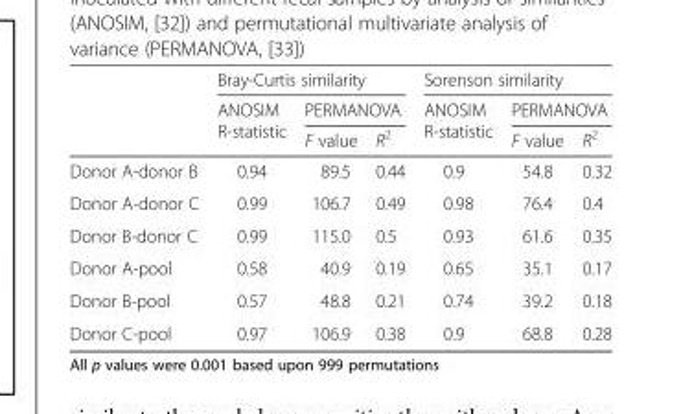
<table><thead><tr><td rowspan="3"></td><td colspan="3">Bray-Curtis similarity</td><td colspan="3">Sorenson similarity</td></tr><tr><td rowspan="2">ANOSIM R-statistic</td><td colspan="2">PERMANOVA</td><td rowspan="2">ANOSIM R-statistic</td><td colspan="2">PERMANOVA</td></tr><tr><td>F value</td><td>R<sup>2</sup></td><td>F value</td><td>R<sup>2</sup></td></tr></thead><tbody><tr><td>Donor A-donor B</td><td>0.94</td><td>89.5</td><td>0.44</td><td>0.9</td><td>54.8</td><td>0.32</td></tr><tr><td>Donor A-donor C</td><td>0.99</td><td>106.7</td><td>0.49</td><td>0.98</td><td>76.4</td><td>0.4</td></tr><tr><td>Donor B-donor C</td><td>0.99</td><td>115.0</td><td>0.5</td><td>0.93</td><td>61.6</td><td>0.35</td></tr><tr><td>Donor A-pool</td><td>0.58</td><td>40.9</td><td>0.19</td><td>0.65</td><td>35.1</td><td>0.17</td></tr><tr><td>Donor B-pool</td><td>0.57</td><td>48.8</td><td>0.21</td><td>0.74</td><td>39.2</td><td>0.18</td></tr><tr><td>Donor C-pool</td><td>0.97</td><td>106.9</td><td>0.38</td><td>0.9</td><td>68.8</td><td>0.28</td></tr></tbody></table>